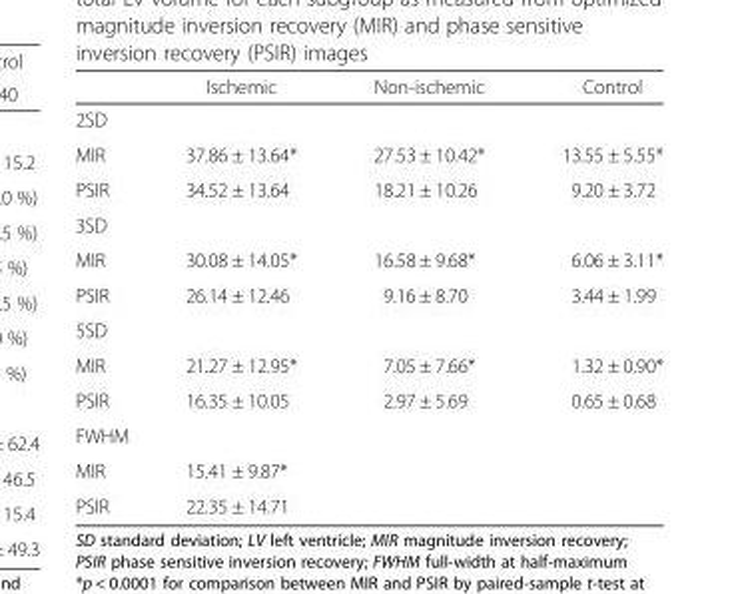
<table><thead><tr><td></td><td>Ischemic</td><td>Non-ischemic</td><td>Control</td></tr></thead><tbody><tr><td colspan="4">2SD</td></tr><tr><td>MIR</td><td>37.86 ± 13.64*</td><td>27.53 ± 10.42*</td><td>13.55 ± 5.55*</td></tr><tr><td>PSIR</td><td>34.52 ± 13.64</td><td>18.21 ± 10.26</td><td>9.20 ± 3.72</td></tr><tr><td colspan="4">3SD</td></tr><tr><td>MIR</td><td>30.08 ± 14.05*</td><td>16.58 ± 9.68*</td><td>6.06 ± 3.11*</td></tr><tr><td>PSIR</td><td>26.14 ± 12.46</td><td>9.16 ± 8.70</td><td>3.44 ± 1.99</td></tr><tr><td colspan="4">5SD</td></tr><tr><td>MIR</td><td>21.27 ± 12.95*</td><td>7.05 ± 7.66*</td><td>1.32 ± 0.90*</td></tr><tr><td>PSIR</td><td>16.35 ± 10.05</td><td>2.97 ± 5.69</td><td>0.65 ± 0.68</td></tr><tr><td colspan="4">FWHM</td></tr><tr><td>MIR</td><td>15.41 ± 9.87*</td><td rowspan="2"></td><td rowspan="2"></td></tr><tr><td>PSIR</td><td>22.35 ± 14.71</td></tr></tbody></table>